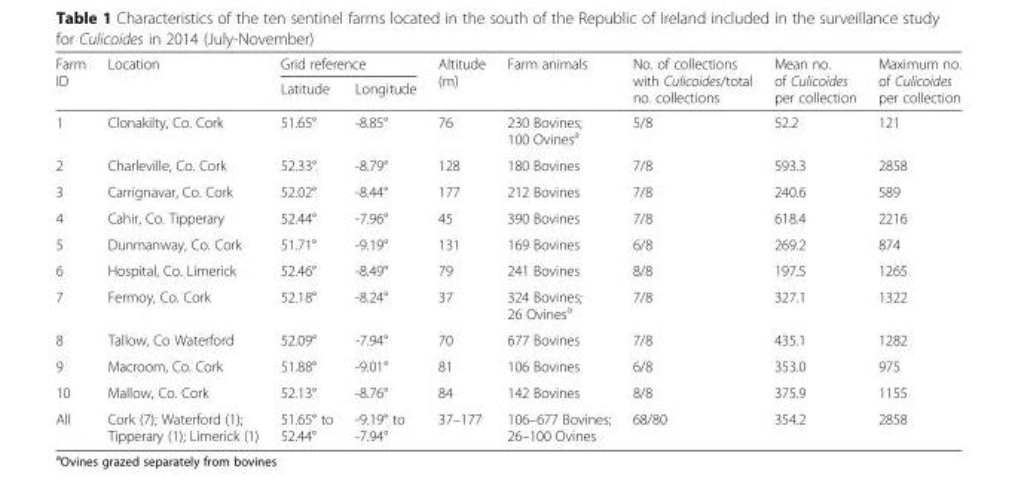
<table><thead><tr><td rowspan="2">Farm ID</td><td rowspan="2">Location</td><td colspan="2">Grid reference</td><td rowspan="2">Altitude (m)</td><td rowspan="2">Farm animals</td><td rowspan="2">No. of collections with Culicoides/total no. collections</td><td rowspan="2">Mean no. of Culicoides per collection</td><td rowspan="2">Maximum no. of Culicoides per collection</td></tr><tr><td>Latitude</td><td>Longitude</td></tr></thead><tbody><tr><td>1</td><td>Clonakilty, Co. Cork</td><td>51.65°</td><td>-8.85°</td><td>76</td><td>230 Bovines; 100 Ovines<sup>a</sup></td><td>5/8</td><td>52.2</td><td>121</td></tr><tr><td>2</td><td>Charleville, Co. Cork</td><td>52.33°</td><td>-8.79°</td><td>128</td><td>180 Bovines</td><td>7/8</td><td>593.3</td><td>2858</td></tr><tr><td>3</td><td>Carrignavar, Co. Cork</td><td>52.02°</td><td>-8.44°</td><td>177</td><td>212 Bovines</td><td>7/8</td><td>240.6</td><td>589</td></tr><tr><td>4</td><td>Cahir, Co. Tipperary</td><td>52.44°</td><td>-7.96°</td><td>45</td><td>390 Bovines</td><td>7/8</td><td>618.4</td><td>2216</td></tr><tr><td>5</td><td>Dunmanway, Co. Cork</td><td>51.71°</td><td>-9.19°</td><td>131</td><td>169 Bovines</td><td>6/8</td><td>269.2</td><td>874</td></tr><tr><td>6</td><td>Hospital, Co. Limerick</td><td>52.46°</td><td>-8.49°</td><td>79</td><td>241 Bovines</td><td>8/8</td><td>197.5</td><td>1265</td></tr><tr><td>7</td><td>Fermoy, Co. Cork</td><td>52.18°</td><td>-8.24°</td><td>37</td><td>324 Bovines; 26 Ovines<sup>a</sup></td><td>7/8</td><td>327.1</td><td>1322</td></tr><tr><td>8</td><td>Tallow, Co Waterford</td><td>52.09°</td><td>-7.94°</td><td>70</td><td>677 Bovines</td><td>7/8</td><td>435.1</td><td>1282</td></tr><tr><td>9</td><td>Macroom, Co. Cork</td><td>51.88°</td><td>-9.01°</td><td>81</td><td>106 Bovines</td><td>6/8</td><td>353.0</td><td>975</td></tr><tr><td>10</td><td>Mallow, Co. Cork</td><td>52.13°</td><td>-8.76°</td><td>84</td><td>142 Bovines</td><td>8/8</td><td>375.9</td><td>1155</td></tr><tr><td>All</td><td>Cork (7); Waterford (1); Tipperary (1); Limerick (1)</td><td>51.65° to 52.44°</td><td>-9.19° to -7.94°</td><td>37–177</td><td>106–677 Bovines; 26–100 Ovines</td><td>68/80</td><td>354.2</td><td>2858</td></tr></tbody></table>